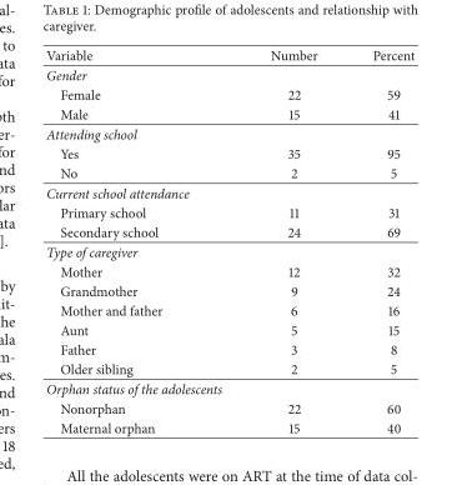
<table><thead><tr><td>Variable</td><td>Number</td><td>Percent</td></tr></thead><tbody><tr><td colspan="3">Gender</td></tr><tr><td>Female</td><td>22</td><td>59</td></tr><tr><td>Male</td><td>15</td><td>41</td></tr><tr><td colspan="3">Attending school</td></tr><tr><td>Yes</td><td>35</td><td>95</td></tr><tr><td>No</td><td>2</td><td>5</td></tr><tr><td colspan="3">Current school attendance</td></tr><tr><td>Primary school</td><td>11</td><td>31</td></tr><tr><td>Secondary school</td><td>24</td><td>69</td></tr><tr><td colspan="3">Type of caregiver</td></tr><tr><td>Mother</td><td>12</td><td>32</td></tr><tr><td>Grandmother</td><td>9</td><td>24</td></tr><tr><td>Mother and father</td><td>6</td><td>16</td></tr><tr><td>Aunt</td><td>5</td><td>15</td></tr><tr><td>Father</td><td>3</td><td>8</td></tr><tr><td>Older sibling</td><td>2</td><td>5</td></tr><tr><td colspan="3">Orphan status of the adolescents</td></tr><tr><td>Nonorphan</td><td>22</td><td>60</td></tr><tr><td>Maternal orphan</td><td>15</td><td>40</td></tr></tbody></table>